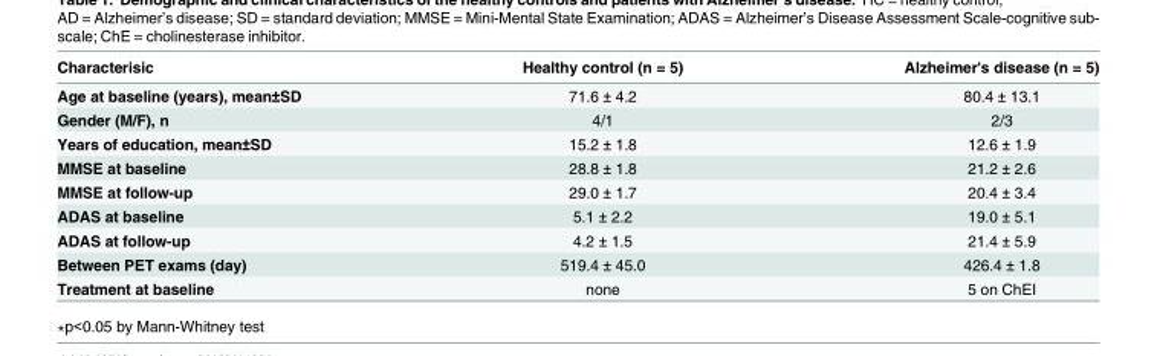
<table><thead><tr><td>Characterisic</td><td>Healthy control (n = 5)</td><td>Alzheimer&#x27;s disease (n = 5)</td></tr></thead><tbody><tr><td>Age at baseline (years), mean±SD</td><td>71.6 ± 4.2</td><td>80.4 ± 13.1</td></tr><tr><td>Gender (M/F), n</td><td>4/1</td><td>2/3</td></tr><tr><td>Years of education, mean±SD</td><td>15.2 ± 1.8</td><td>12.6 ± 1.9</td></tr><tr><td>MMSE at baseline</td><td>28.8 ± 1.8</td><td>21.2 ± 2.6</td></tr><tr><td>MMSE at follow-up</td><td>29.0 ± 1.7</td><td>20.4 ± 3.4</td></tr><tr><td>ADAS at baseline</td><td>5.1 ± 2.2</td><td>19.0 ± 5.1</td></tr><tr><td>ADAS at follow-up</td><td>4.2 ± 1.5</td><td>21.4 ± 5.9</td></tr><tr><td>Between PET exams (day)</td><td>519.4 ± 45.0</td><td>426.4 ± 1.8</td></tr><tr><td>Treatment at baseline</td><td>none</td><td>5 on ChEI</td></tr></tbody></table>